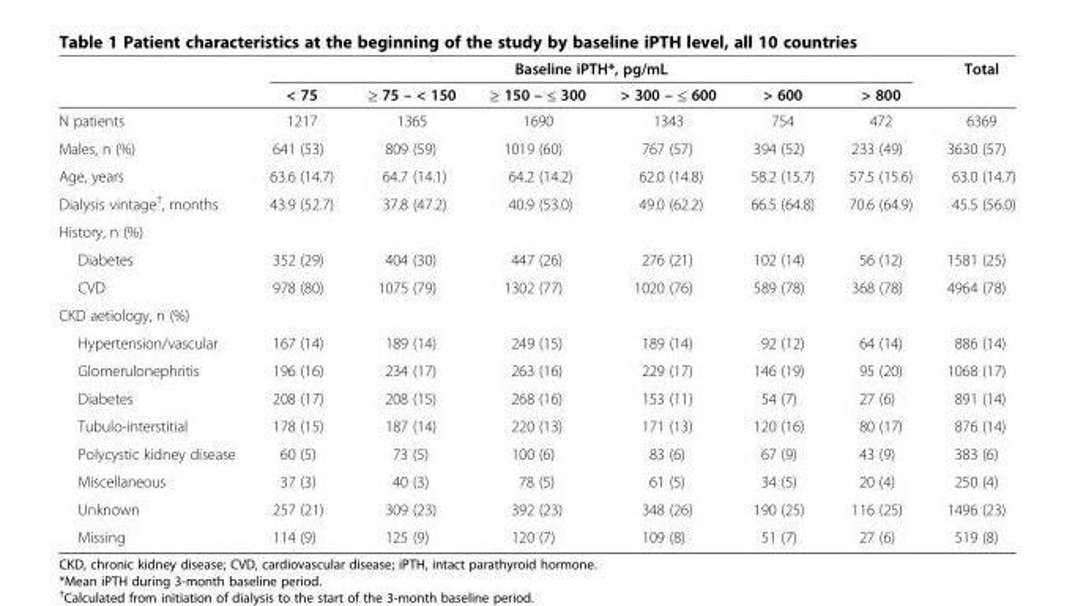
<table><thead><tr><td rowspan="2"></td><td colspan="6">Baseline iPTH*, pg/mL</td><td rowspan="2">Total</td></tr><tr><td>&lt; 75</td><td>≥ 75 – &lt; 150</td><td>≥ 150 – ≤ 300</td><td>&gt; 300 – ≤ 600</td><td>&gt; 600</td><td>&gt; 800</td></tr></thead><tbody><tr><td>N patients</td><td>1217</td><td>1365</td><td>1690</td><td>1343</td><td>754</td><td>472</td><td>6369</td></tr><tr><td>Males, n (%)</td><td>641 (53)</td><td>809 (59)</td><td>1019 (60)</td><td>767 (57)</td><td>394 (52)</td><td>233 (49)</td><td>3630 (57)</td></tr><tr><td>Age, years</td><td>63.6 (14.7)</td><td>64.7 (14.1)</td><td>64.2 (14.2)</td><td>62.0 (14.8)</td><td>58.2 (15.7)</td><td>57.5 (15.6)</td><td>63.0 (14.7)</td></tr><tr><td>Dialysis vintage<sup>†</sup>, months</td><td>43.9 (52.7)</td><td>37.8 (47.2)</td><td>40.9 (53.0)</td><td>49.0 (62.2)</td><td>66.5 (64.8)</td><td>70.6 (64.9)</td><td>45.5 (56.0)</td></tr><tr><td colspan="8">History, n (%)</td></tr><tr><td>Diabetes</td><td>352 (29)</td><td>404 (30)</td><td>447 (26)</td><td>276 (21)</td><td>102 (14)</td><td>56 (12)</td><td>1581 (25)</td></tr><tr><td>CVD</td><td>978 (80)</td><td>1075 (79)</td><td>1302 (77)</td><td>1020 (76)</td><td>589 (78)</td><td>368 (78)</td><td>4964 (78)</td></tr><tr><td colspan="8">CKD aetiology, n (%)</td></tr><tr><td>Hypertension/vascular</td><td>167 (14)</td><td>189 (14)</td><td>249 (15)</td><td>189 (14)</td><td>92 (12)</td><td>64 (14)</td><td>886 (14)</td></tr><tr><td>Glomerulonephritis</td><td>196 (16)</td><td>234 (17)</td><td>263 (16)</td><td>229 (17)</td><td>146 (19)</td><td>95 (20)</td><td>1068 (17)</td></tr><tr><td>Diabetes</td><td>208 (17)</td><td>208 (15)</td><td>268 (16)</td><td>153 (11)</td><td>54 (7)</td><td>27 (6)</td><td>891 (14)</td></tr><tr><td>Tubulo-interstitial</td><td>178 (15)</td><td>187 (14)</td><td>220 (13)</td><td>171 (13)</td><td>120 (16)</td><td>80 (17)</td><td>876 (14)</td></tr><tr><td>Polycystic kidney disease</td><td>60 (5)</td><td>73 (5)</td><td>100 (6)</td><td>83 (6)</td><td>67 (9)</td><td>43 (9)</td><td>383 (6)</td></tr><tr><td>Miscellaneous</td><td>37 (3)</td><td>40 (3)</td><td>78 (5)</td><td>61 (5)</td><td>34 (5)</td><td>20 (4)</td><td>250 (4)</td></tr><tr><td>Unknown</td><td>257 (21)</td><td>309 (23)</td><td>392 (23)</td><td>348 (26)</td><td>190 (25)</td><td>116 (25)</td><td>1496 (23)</td></tr><tr><td>Missing</td><td>114 (9)</td><td>125 (9)</td><td>120 (7)</td><td>109 (8)</td><td>51 (7)</td><td>27 (6)</td><td>519 (8)</td></tr></tbody></table>